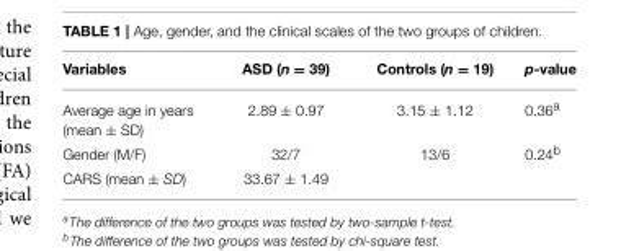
<table><thead><tr><td>Variables</td><td>ASD (n = 39)</td><td>Controls (n = 19)</td><td>p-value</td></tr></thead><tbody><tr><td>Average age in years (mean ± SD)</td><td>2.89 ± 0.97</td><td>3.15 ± 1.12</td><td>0.36<sup>a</sup></td></tr><tr><td>Gender (M/F)</td><td>32/7</td><td>13/6</td><td>0.24<sup>b</sup></td></tr><tr><td>CARS (mean ± SD)</td><td>33.67 ± 1.49</td><td></td><td></td></tr></tbody></table>